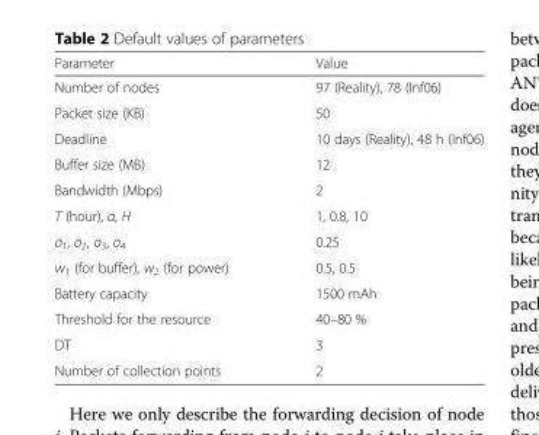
<table><thead><tr><td>Parameter</td><td>Value</td></tr></thead><tbody><tr><td>Number of nodes</td><td>97 (Reality), 78 (Inf06)</td></tr><tr><td>Packet size (KB)</td><td>50</td></tr><tr><td>Deadline</td><td>10 days (Reality), 48 h (Inf06)</td></tr><tr><td>Buffer size (MB)</td><td>12</td></tr><tr><td>Bandwidth (Mbps)</td><td>2</td></tr><tr><td>T (hour), α, H</td><td>1, 0.8, 10</td></tr><tr><td>σ<sub>1</sub>, σ<sub>2</sub>, σ<sub>3</sub>, σ<sub>4</sub></td><td>0.25</td></tr><tr><td>w<sub>1</sub> (for buffer), w<sub>2</sub> (for power)</td><td>0.5, 0.5</td></tr><tr><td>Battery capacity</td><td>1500 mAh</td></tr><tr><td>Threshold for the resource</td><td>40–80 %</td></tr><tr><td>DT</td><td>3</td></tr><tr><td>Number of collection points</td><td>2</td></tr></tbody></table>